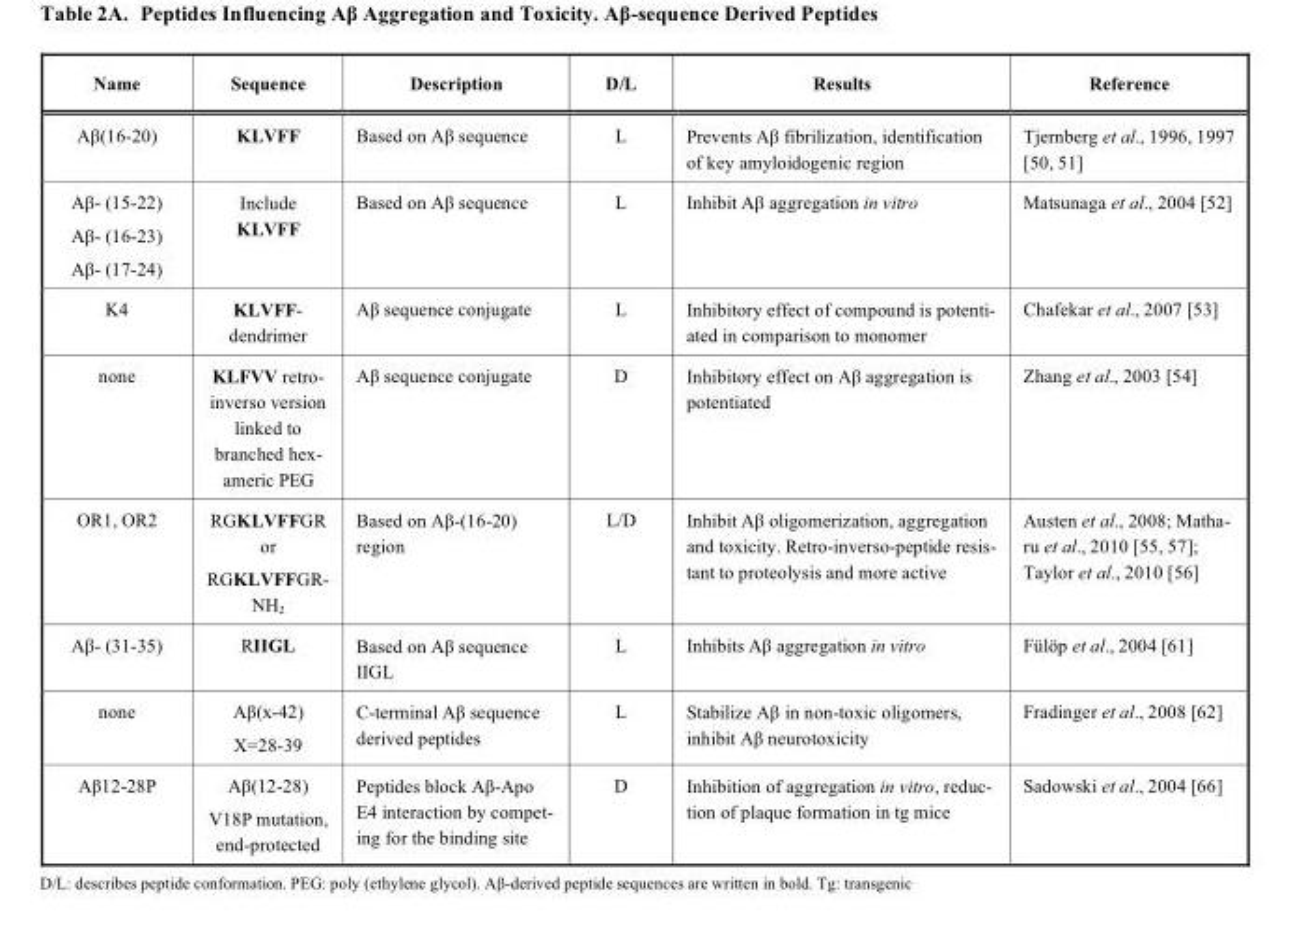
<table><thead><tr><td>Name</td><td>Sequence</td><td>Description</td><td>D/L</td><td>Results</td><td>Reference</td></tr></thead><tbody><tr><td>Aβ(16-20)</td><td>KLVFF</td><td>Based on Aβ sequence</td><td>L</td><td>Prevents Aβ fibrilization, identification of key amyloidogenic region</td><td>Tjernberg et al., 1996, 1997 [50, 51]</td></tr><tr><td>Aβ- (15-22) Aβ- (16-23) Aβ- (17-24)</td><td>Include KLVFF</td><td>Based on Aβ sequence</td><td>L</td><td>Inhibit Aβ aggregation in vitro</td><td>Matsunaga et al., 2004 [52]</td></tr><tr><td>K4</td><td>KLVFF- dendrimer</td><td>Aβ sequence conjugate</td><td>L</td><td>Inhibitory effect of compound is potenti- ated in comparison to monomer</td><td>Chafekar et al., 2007 [53]</td></tr><tr><td>none</td><td>KLFVV retro- inverso version linked to branched hex- americ PEG</td><td>Aβ sequence conjugate</td><td>D</td><td>Inhibitory effect on Aβ aggregation is potentiated</td><td>Zhang et al., 2003 [54]</td></tr><tr><td>OR1, OR2</td><td>RGKLVFFGR or RGKLVFFGR- NH<sub>2</sub></td><td>Based on Aβ-(16-20) region</td><td>L/D</td><td>Inhibit A� oligomerization, aggregation and toxicity. Retro-inverso-peptide resis- tant to proteolysis and more active</td><td>Austen et al., 2008; Matha- ru et al., 2010 [55, 57]; Taylor et al., 2010 [56]</td></tr><tr><td>Aβ- (31-35)</td><td>RIIGL</td><td>Based on Aβ sequence IIGL</td><td>L</td><td>Inhibits Aβ aggregation in vitro</td><td>Fülöp et al., 2004 [61]</td></tr><tr><td>none</td><td>Aβ(x-42) X=28-39</td><td>C-terminal Aβ sequence derived peptides</td><td>L</td><td>Stabilize Aβ in non-toxic oligomers, inhibit Aβ neurotoxicity</td><td>Fradinger et al., 2008 [62]</td></tr><tr><td>Aβ12-28P</td><td>Aβ(12-28) V18P mutation, end-protected</td><td>Peptides block A�-Apo E4 interaction by compet- ing for the binding site</td><td>D</td><td>Inhibition of aggregation in vitro, reduc- tion of plaque formation in tg mice</td><td>Sadowski et al., 2004 [66]</td></tr></tbody></table>